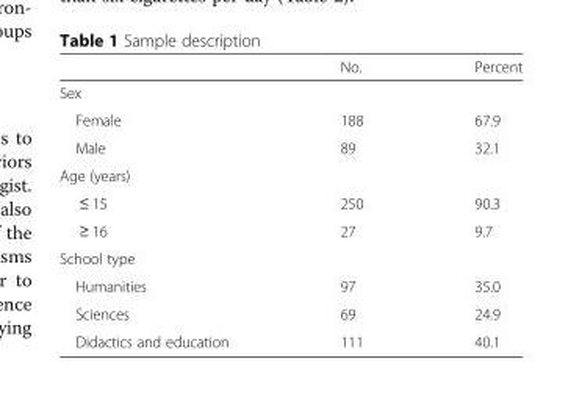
<table><thead><tr><td></td><td>No.</td><td>Percent</td></tr></thead><tbody><tr><td colspan="3">Sex</td></tr><tr><td>Female</td><td>188</td><td>67.9</td></tr><tr><td>Male</td><td>89</td><td>32.1</td></tr><tr><td colspan="3">Age (years)</td></tr><tr><td>≤ 15</td><td>250</td><td>90.3</td></tr><tr><td>≥ 16</td><td>27</td><td>9.7</td></tr><tr><td colspan="3">School type</td></tr><tr><td>Humanities</td><td>97</td><td>35.0</td></tr><tr><td>Sciences</td><td>69</td><td>24.9</td></tr><tr><td>Didactics and education</td><td>111</td><td>40.1</td></tr></tbody></table>